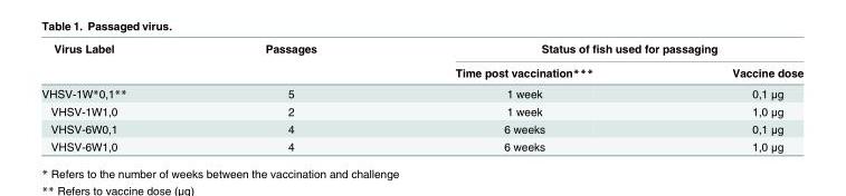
<table><thead><tr><td rowspan="2">Virus Label</td><td rowspan="2">Passages</td><td colspan="2">Status of fish used for passaging</td></tr><tr><td>Time post vaccination***</td><td>Vaccine dose</td></tr></thead><tbody><tr><td>VHSV-1W*0,1**</td><td>5</td><td>1 week</td><td>0,1 μg</td></tr><tr><td>VHSV-1W1,0</td><td>2</td><td>1 week</td><td>1,0 μg</td></tr><tr><td>VHSV-6W0,1</td><td>4</td><td>6 weeks</td><td>0,1 μg</td></tr><tr><td>VHSV-6W1,0</td><td>4</td><td>6 weeks</td><td>1,0 μg</td></tr></tbody></table>